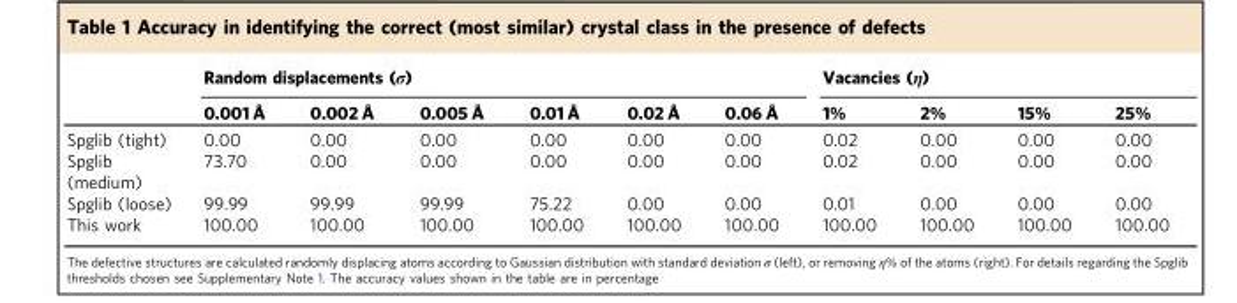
<table><thead><tr><td rowspan="2"></td><td colspan="6">Random displacements (σ)</td><td colspan="4">Vacancies (η)</td></tr><tr><td>0.001 Å</td><td>0.002 Å</td><td>0.005 Å</td><td>0.01 Å</td><td>0.02 Å</td><td>0.06 Å</td><td>1%</td><td>2%</td><td>15%</td><td>25%</td></tr></thead><tbody><tr><td>Spglib (tight)</td><td>0.00</td><td>0.00</td><td>0.00</td><td>0.00</td><td>0.00</td><td>0.00</td><td>0.02</td><td>0.00</td><td>0.00</td><td>0.00</td></tr><tr><td>Spglib (medium)</td><td>73.70</td><td>0.00</td><td>0.00</td><td>0.00</td><td>0.00</td><td>0.00</td><td>0.02</td><td>0.00</td><td>0.00</td><td>0.00</td></tr><tr><td>Spglib (loose)</td><td>99.99</td><td>99.99</td><td>99.99</td><td>75.22</td><td>0.00</td><td>0.00</td><td>0.01</td><td>0.00</td><td>0.00</td><td>0.00</td></tr><tr><td>This work</td><td>100.00</td><td>100.00</td><td>100.00</td><td>100.00</td><td>100.00</td><td>100.00</td><td>100.00</td><td>100.00</td><td>100.00</td><td>100.00</td></tr></tbody></table>